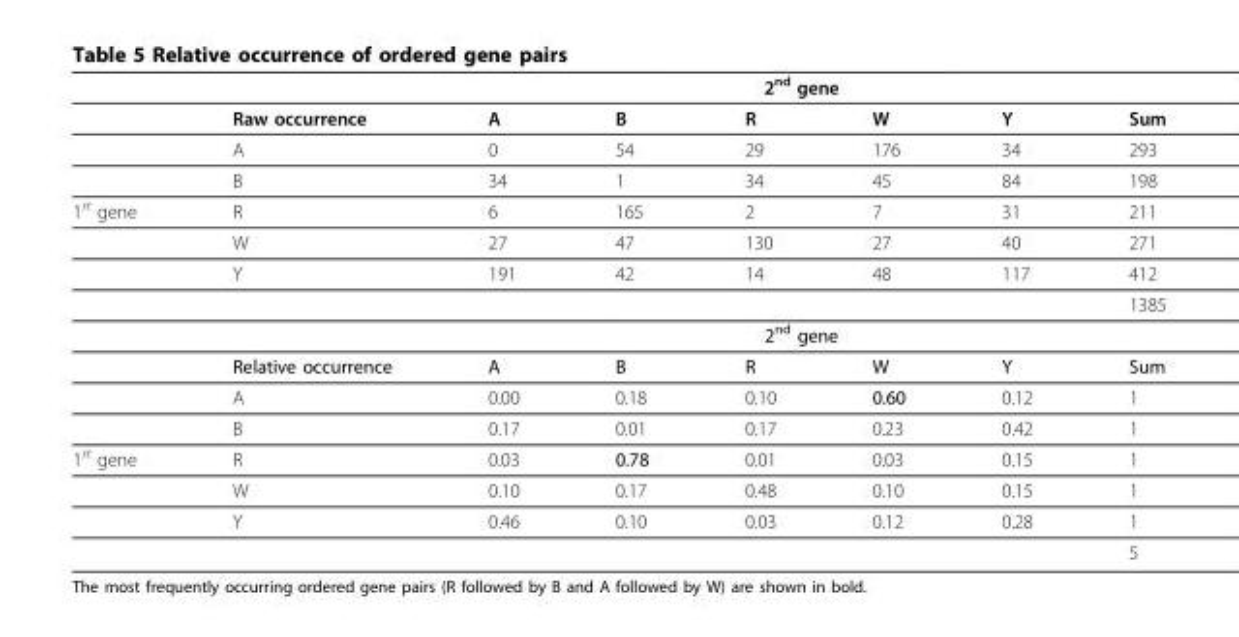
<table><thead><tr><td rowspan="2"></td><td rowspan="2">Raw occurrence</td><td colspan="5">2nd gene</td><td rowspan="2">Sum</td></tr><tr><td>A</td><td>B</td><td>R</td><td>W</td><td>Y</td></tr></thead><tbody><tr><td></td><td>A</td><td>0</td><td>54</td><td>29</td><td>176</td><td>34</td><td>293</td></tr><tr><td></td><td>B</td><td>34</td><td>1</td><td>34</td><td>45</td><td>84</td><td>198</td></tr><tr><td rowspan="8">1<sup>st</sup> gene</td><td>R</td><td>6</td><td>165</td><td>2</td><td>7</td><td>31</td><td>211</td></tr><tr><td>W</td><td>27</td><td>47</td><td>130</td><td>27</td><td>40</td><td>271</td></tr><tr><td>Y</td><td>191</td><td>42</td><td>14</td><td>48</td><td>117</td><td>412</td></tr><tr><td></td><td></td><td></td><td></td><td></td><td></td><td>1385</td></tr><tr><td></td><td colspan="5">2nd gene</td><td></td></tr><tr><td>Relative occurrence</td><td>A</td><td>B</td><td>R</td><td>W</td><td>Y</td><td>Sum</td></tr><tr><td>A</td><td>0.00</td><td>0.18</td><td>0.10</td><td>0.60</td><td>0.12</td><td>1</td></tr><tr><td>B</td><td>0.17</td><td>0.01</td><td>0.17</td><td>0.23</td><td>0.42</td><td>1</td></tr><tr><td rowspan="4">1<sup>st</sup> gene</td><td>R</td><td>0.03</td><td>0.78</td><td>0.01</td><td>0.03</td><td>0.15</td><td>1</td></tr><tr><td>W</td><td>0.10</td><td>0.17</td><td>0.48</td><td>0.10</td><td>0.15</td><td>1</td></tr><tr><td>Y</td><td>0.46</td><td>0.10</td><td>0.03</td><td>0.12</td><td>0.28</td><td>1</td></tr><tr><td></td><td></td><td></td><td></td><td></td><td></td><td>5</td></tr></tbody></table>